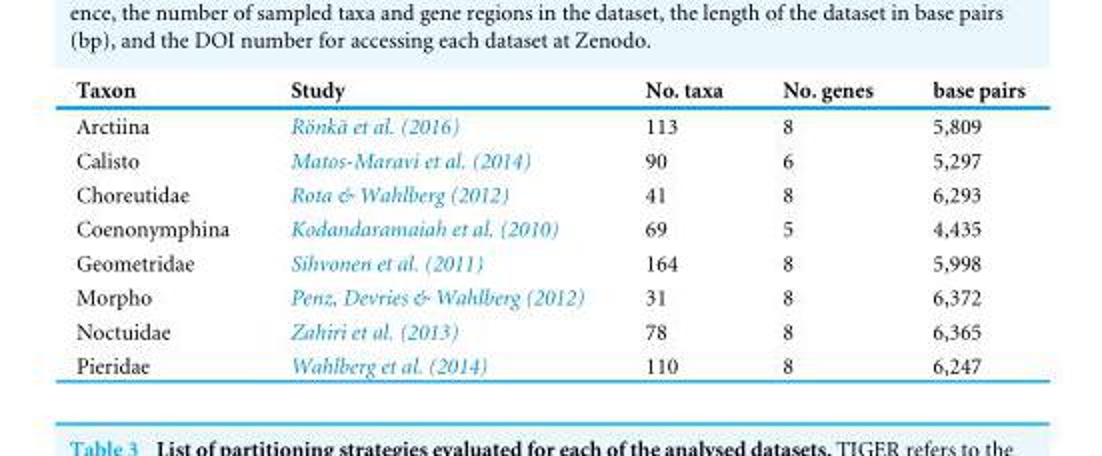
<table><thead><tr><td>Taxon</td><td>Study</td><td>No. taxa</td><td>No. genes</td><td>base pairs</td></tr></thead><tbody><tr><td>Arctiina</td><td>Rönkä et al. (2016)</td><td>113</td><td>8</td><td>5,809</td></tr><tr><td>Calisto</td><td>Matos-Maravi et al. (2014)</td><td>90</td><td>6</td><td>5,297</td></tr><tr><td>Choreutidae</td><td>Rota &amp; Wahlberg (2012)</td><td>41</td><td>8</td><td>6,293</td></tr><tr><td>Coenonymphina</td><td>Kodandaramaiah et al. (2010)</td><td>69</td><td>5</td><td>4,435</td></tr><tr><td>Geometridae</td><td>Sihvonen et al. (2011)</td><td>164</td><td>8</td><td>5,998</td></tr><tr><td>Morpho</td><td>Penz, Devries &amp; Wahlberg (2012)</td><td>31</td><td>8</td><td>6,372</td></tr><tr><td>Noctuidae</td><td>Zahiri et al. (2013)</td><td>78</td><td>8</td><td>6,365</td></tr><tr><td>Pieridae</td><td>Wahlberg et al. (2014)</td><td>110</td><td>8</td><td>6,247</td></tr></tbody></table>